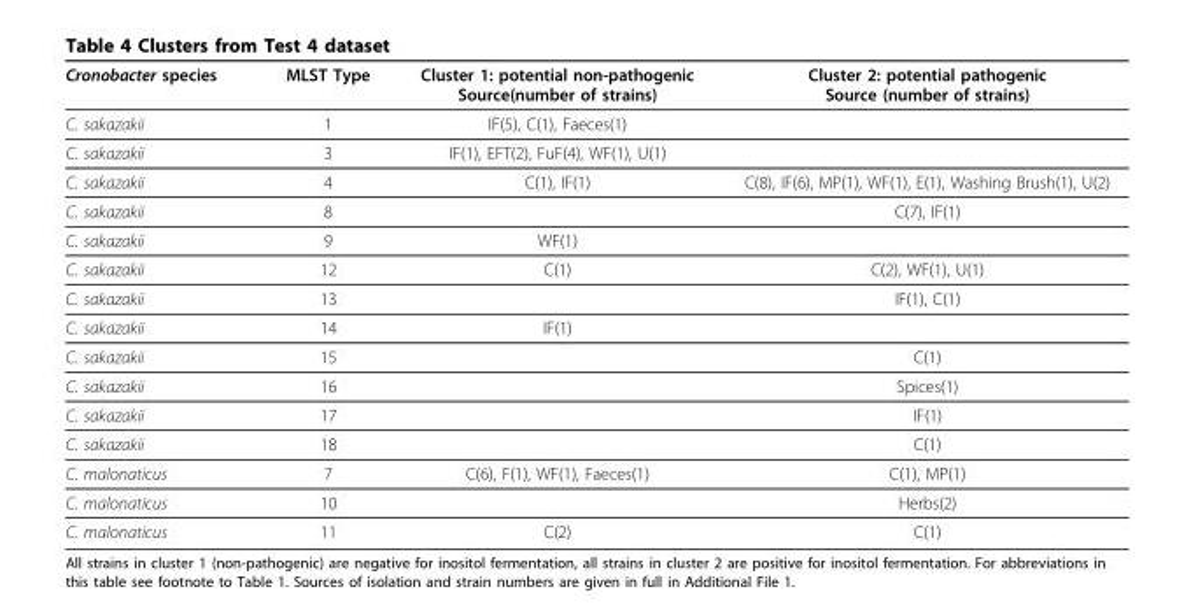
<table><thead><tr><td>Cronobacter species</td><td>MLST Type</td><td>Cluster 1: potential non-pathogenic Source(number of strains)</td><td>Cluster 2: potential pathogenic Source (number of strains)</td></tr></thead><tbody><tr><td>C. sakazakii</td><td>1</td><td>IF(5), C(1), Faeces(1)</td><td></td></tr><tr><td>C. sakazakii</td><td>3</td><td>IF(1), EFT(2), FuF(4), WF(1), U(1)</td><td></td></tr><tr><td>C. sakazakii</td><td>4</td><td>C(1), IF(1)</td><td>C(8), IF(6), MP(1), WF(1), E(1), Washing Brush(1), U(2)</td></tr><tr><td>C. sakazakii</td><td>8</td><td></td><td>C(7), IF(1)</td></tr><tr><td>C. sakazakii</td><td>9</td><td>WF(1)</td><td></td></tr><tr><td>C. sakazakii</td><td>12</td><td>C(1)</td><td>C(2), WF(1), U(1)</td></tr><tr><td>C. sakazakii</td><td>13</td><td></td><td>IF(1), C(1)</td></tr><tr><td>C. sakazakii</td><td>14</td><td>IF(1)</td><td></td></tr><tr><td>C. sakazakii</td><td>15</td><td></td><td>C(1)</td></tr><tr><td>C. sakazakii</td><td>16</td><td></td><td>Spices(1)</td></tr><tr><td>C. sakazakii</td><td>17</td><td></td><td>IF(1)</td></tr><tr><td>C. sakazakii</td><td>18</td><td></td><td>C(1)</td></tr><tr><td>C. malonaticus</td><td>7</td><td>C(6), F(1), WF(1), Faeces(1)</td><td>C(1), MP(1)</td></tr><tr><td>C. malonaticus</td><td>10</td><td></td><td>Herbs(2)</td></tr><tr><td>C. malonaticus</td><td>11</td><td>C(2)</td><td>C(1)</td></tr></tbody></table>